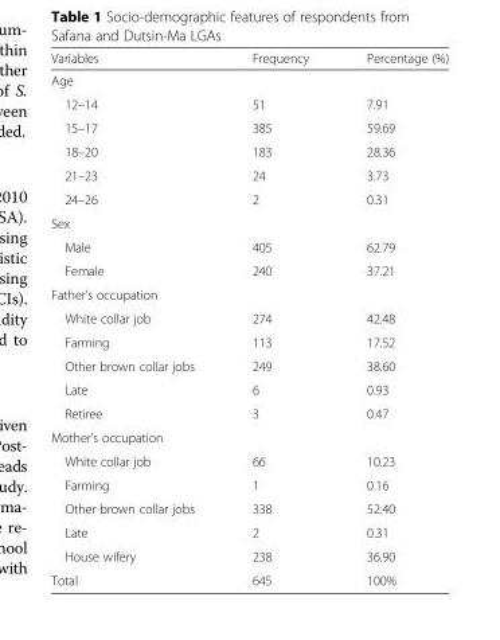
<table><thead><tr><td>Variables</td><td>Frequency</td><td>Percentage (%)</td></tr></thead><tbody><tr><td colspan="3">Age</td></tr><tr><td>12–14</td><td>51</td><td>7.91</td></tr><tr><td>15–17</td><td>385</td><td>59.69</td></tr><tr><td>18–20</td><td>183</td><td>28.36</td></tr><tr><td>21–23</td><td>24</td><td>3.73</td></tr><tr><td>24–26</td><td>2</td><td>0.31</td></tr><tr><td colspan="3">Sex</td></tr><tr><td>Male</td><td>405</td><td>62.79</td></tr><tr><td>Female</td><td>240</td><td>37.21</td></tr><tr><td colspan="3">Father’s occupation</td></tr><tr><td>White collar job</td><td>274</td><td>42.48</td></tr><tr><td>Farming</td><td>113</td><td>17.52</td></tr><tr><td>Other brown collar jobs</td><td>249</td><td>38.60</td></tr><tr><td>Late</td><td>6</td><td>0.93</td></tr><tr><td>Retiree</td><td>3</td><td>0.47</td></tr><tr><td colspan="3">Mother’s occupation</td></tr><tr><td>White collar job</td><td>66</td><td>10.23</td></tr><tr><td>Farming</td><td>1</td><td>0.16</td></tr><tr><td>Other brown collar jobs</td><td>338</td><td>52.40</td></tr><tr><td>Late</td><td>2</td><td>0.31</td></tr><tr><td>House wifery</td><td>238</td><td>36.90</td></tr><tr><td>Total</td><td>645</td><td>100%</td></tr></tbody></table>